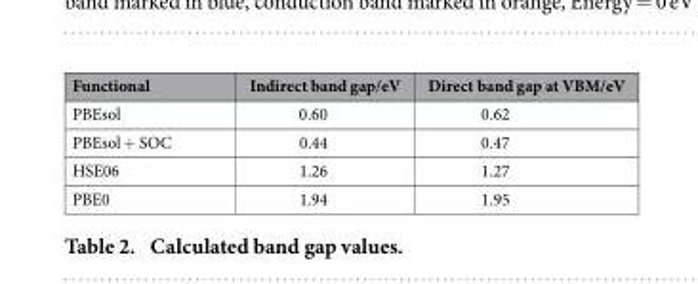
<table><thead><tr><td>Functional</td><td>Indirect band gap/eV</td><td>Direct band gap at VBM/eV</td></tr></thead><tbody><tr><td>PBEsol</td><td>0.60</td><td>0.62</td></tr><tr><td>PBEsol + SOC</td><td>0.44</td><td>0.47</td></tr><tr><td>HSE06</td><td>1.26</td><td>1.27</td></tr><tr><td>PBE0</td><td>1.94</td><td>1.95</td></tr></tbody></table>